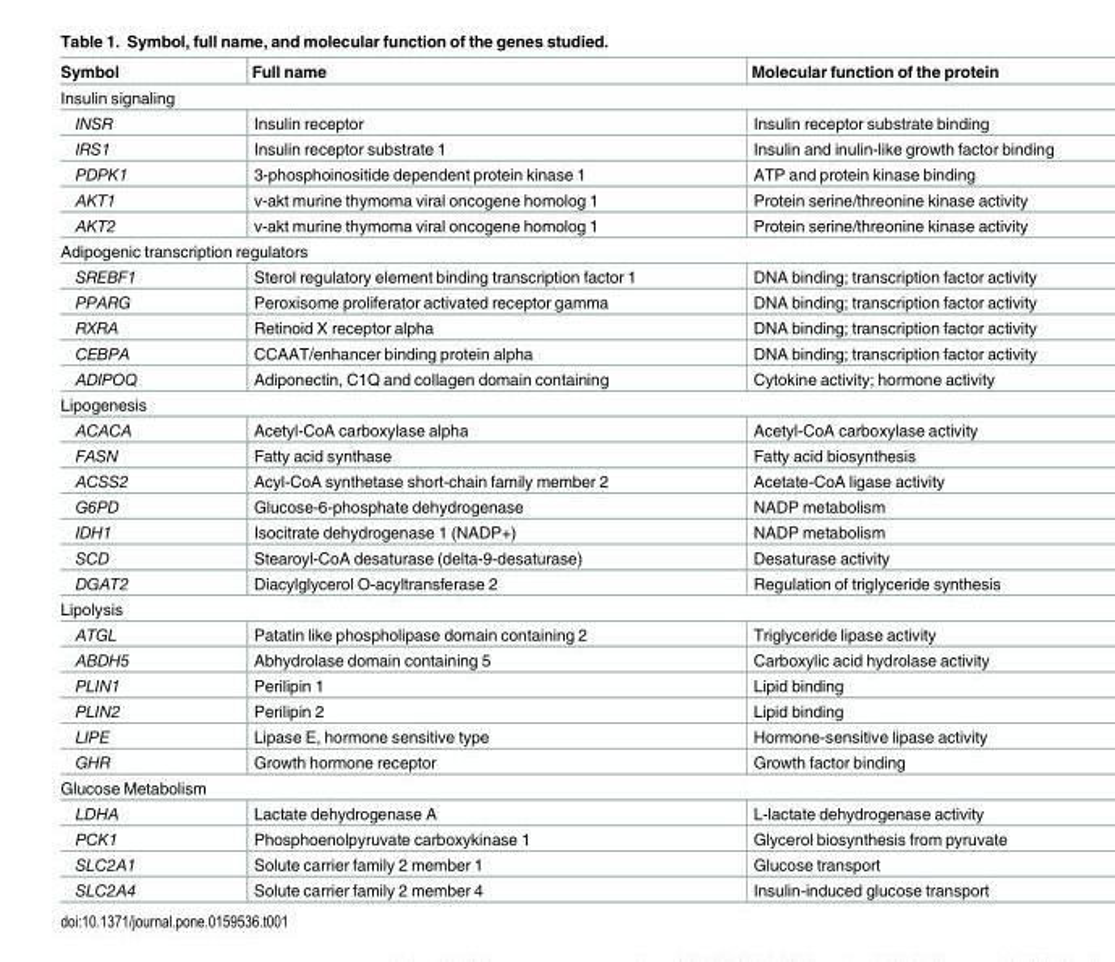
<table><thead><tr><td>Symbol</td><td>Full name</td><td>Molecular function of the protein</td></tr></thead><tbody><tr><td colspan="3">Insulin signaling</td></tr><tr><td>INSR</td><td>Insulin receptor</td><td>Insulin receptor substrate binding</td></tr><tr><td>IRS1</td><td>Insulin receptor substrate 1</td><td>Insulin and inulin-like growth factor binding</td></tr><tr><td>PDPK1</td><td>3-phosphoinositide dependent protein kinase 1</td><td>ATP and protein kinase binding</td></tr><tr><td>AKT1</td><td>v-akt murine thymoma viral oncogene homolog 1</td><td>Protein serine/threonine kinase activity</td></tr><tr><td>AKT2</td><td>v-akt murine thymoma viral oncogene homolog 1</td><td>Protein serine/threonine kinase activity</td></tr><tr><td colspan="3">Adipogenic transcription regulators</td></tr><tr><td>SREBF1</td><td>Sterol regulatory element binding transcription factor 1</td><td>DNA binding; transcription factor activity</td></tr><tr><td>PPARG</td><td>Peroxisome proliferator activated receptor gamma</td><td>DNA binding; transcription factor activity</td></tr><tr><td>RXRA</td><td>Retinoid X receptor alpha</td><td>DNA binding; transcription factor activity</td></tr><tr><td>CEBPA</td><td>CCAAT/enhancer binding protein alpha</td><td>DNA binding; transcription factor activity</td></tr><tr><td>ADIPOQ</td><td>Adiponectin, C1Q and collagen domain containing</td><td>Cytokine activity; hormone activity</td></tr><tr><td colspan="3">Lipogenesis</td></tr><tr><td>ACACA</td><td>Acetyl-CoA carboxylase alpha</td><td>Acetyl-CoA carboxylase activity</td></tr><tr><td>FASN</td><td>Fatty acid synthase</td><td>Fatty acid biosynthesis</td></tr><tr><td>ACSS2</td><td>Acyl-CoA synthetase short-chain family member 2</td><td>Acetate-CoA ligase activity</td></tr><tr><td>G6PD</td><td>Glucose-6-phosphate dehydrogenase</td><td>NADP metabolism</td></tr><tr><td>IDH1</td><td>Isocitrate dehydrogenase 1 (NADP+)</td><td>NADP metabolism</td></tr><tr><td>SCD</td><td>Stearoyl-CoA desaturase (delta-9-desaturase)</td><td>Desaturase activity</td></tr><tr><td>DGAT2</td><td>Diacylglycerol O-acyltransferase 2</td><td>Regulation of triglyceride synthesis</td></tr><tr><td colspan="3">Lipolysis</td></tr><tr><td>ATGL</td><td>Patatin like phospholipase domain containing 2</td><td>Triglyceride lipase activity</td></tr><tr><td>ABDH5</td><td>Abhydrolase domain containing 5</td><td>Carboxylic acid hydrolase activity</td></tr><tr><td>PLIN1</td><td>Perilipin 1</td><td>Lipid binding</td></tr><tr><td>PLIN2</td><td>Perilipin 2</td><td>Lipid binding</td></tr><tr><td>LIPE</td><td>Lipase E, hormone sensitive type</td><td>Hormone-sensitive lipase activity</td></tr><tr><td>GHR</td><td>Growth hormone receptor</td><td>Growth factor binding</td></tr><tr><td colspan="3">Glucose Metabolism</td></tr><tr><td>LDHA</td><td>Lactate dehydrogenase A</td><td>L-lactate dehydrogenase activity</td></tr><tr><td>PCK1</td><td>Phosphoenolpyruvate carboxykinase 1</td><td>Glycerol biosynthesis from pyruvate</td></tr><tr><td>SLC2A1</td><td>Solute carrier family 2 member 1</td><td>Glucose transport</td></tr><tr><td>SLC2A4</td><td>Solute carrier family 2 member 4</td><td>Insulin-induced glucose transport</td></tr></tbody></table>